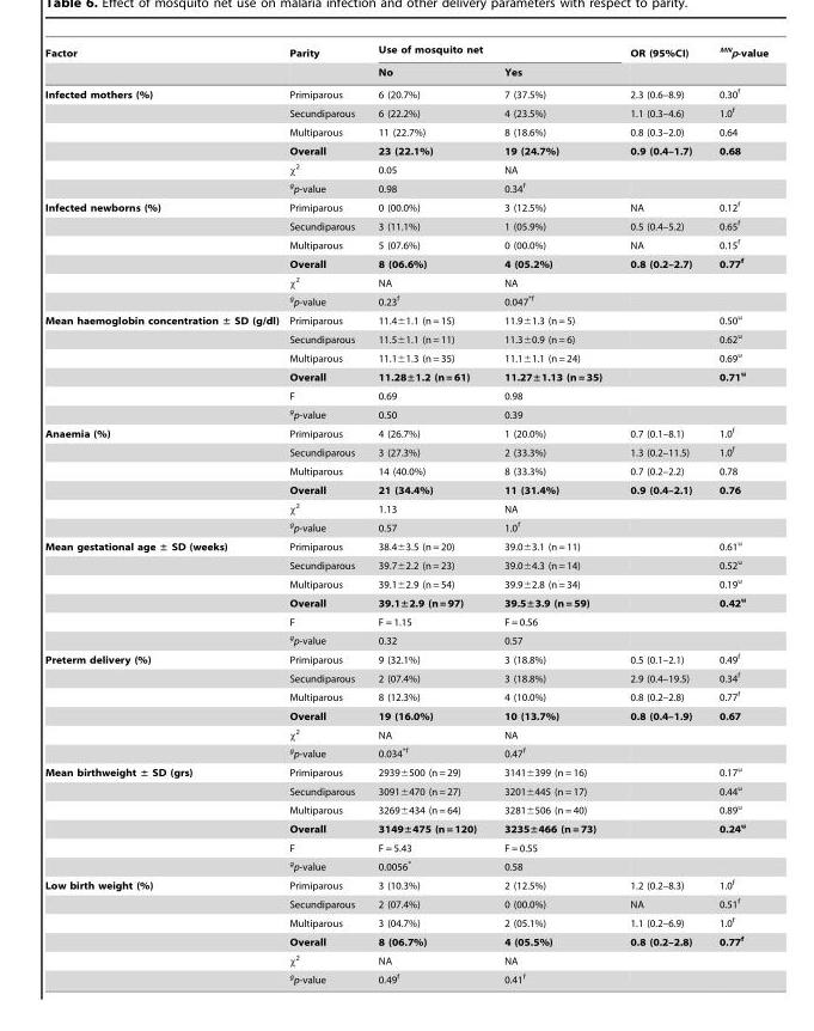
<table><thead><tr><td rowspan="2">Factor</td><td rowspan="2">Parity</td><td colspan="2">Use of mosquito net</td><td rowspan="2">OR (95%CI)</td><td rowspan="2">MNp-value</td></tr><tr><td>No</td><td>Yes</td></tr></thead><tbody><tr><td rowspan="6">Infected mothers (%)</td><td>Primiparous</td><td>6 (20.7%)</td><td>7 (37.5%)</td><td>2.3 (0.6–8.9)</td><td>0.30<sup>f</sup></td></tr><tr><td>Secundiparous</td><td>6 (22.2%)</td><td>4 (23.5%)</td><td>1.1 (0.3–4.6)</td><td>1.0<sup>f</sup></td></tr><tr><td>Multiparous</td><td>11 (22.7%)</td><td>8 (18.6%)</td><td>0.8 (0.3–2.0)</td><td>0.64</td></tr><tr><td>Overall</td><td>23 (22.1%)</td><td>19 (24.7%)</td><td>0.9 (0.4–1.7)</td><td>0.68</td></tr><tr><td>χ<sup>2</sup></td><td>0.05</td><td>NA</td><td></td><td></td></tr><tr><td>gp-value</td><td>0.98</td><td>0.34<sup>f</sup></td><td></td><td></td></tr><tr><td rowspan="6">Infected newborns (%)</td><td>Primiparous</td><td>0 (00.0%)</td><td>3 (12.5%)</td><td>NA</td><td>0.12<sup>f</sup></td></tr><tr><td>Secundiparous</td><td>3 (11.1%)</td><td>1 (05.9%)</td><td>0.5 (0.4–5.2)</td><td>0.65<sup>f</sup></td></tr><tr><td>Multiparous</td><td>5 (07.6%)</td><td>0 (00.0%)</td><td>NA</td><td>0.15<sup>f</sup></td></tr><tr><td>Overall</td><td>8 (06.6%)</td><td>4 (05.2%)</td><td>0.8 (0.2–2.7)</td><td>0.77f</td></tr><tr><td>χ<sup>2</sup></td><td>NA</td><td>NA</td><td></td><td></td></tr><tr><td>gp-value</td><td>0.23<sup>f</sup></td><td>0.047*f</td><td></td><td></td></tr><tr><td rowspan="6">Mean haemoglobin concentration ± SD (g/dl)</td><td>Primiparous</td><td>11.4±1.1 (n = 15)</td><td>11.9±1.3 (n = 5)</td><td></td><td>0.50<sup>u</sup></td></tr><tr><td>Secundiparous</td><td>11.5±1.1 (n = 11)</td><td>11.3±0.9 (n = 6)</td><td></td><td>0.62<sup>u</sup></td></tr><tr><td>Multiparous</td><td>11.1±1.3 (n = 35)</td><td>11.1±1.1 (n = 24)</td><td></td><td>0.69<sup>u</sup></td></tr><tr><td>Overall</td><td>11.28±1.2 (n = 61)</td><td>11.27±1.13 (n = 35)</td><td></td><td>0.71u</td></tr><tr><td>F</td><td>0.69</td><td>0.98</td><td></td><td></td></tr><tr><td>gp-value</td><td>0.50</td><td>0.39</td><td></td><td></td></tr><tr><td rowspan="6">Anaemia (%)</td><td>Primiparous</td><td>4 (26.7%)</td><td>1 (20.0%)</td><td>0.7 (0.1–8.1)</td><td>1.0<sup>f</sup></td></tr><tr><td>Secundiparous</td><td>3 (27.3%)</td><td>2 (33.3%)</td><td>1.3 (0.2–11.5)</td><td>1.0<sup>f</sup></td></tr><tr><td>Multiparous</td><td>14 (40.0%)</td><td>8 (33.3%)</td><td>0.7 (0.2–2.2)</td><td>0.78</td></tr><tr><td>Overall</td><td>21 (34.4%)</td><td>11 (31.4%)</td><td>0.9 (0.4–2.1)</td><td>0.76</td></tr><tr><td>χ<sup>2</sup></td><td>1.13</td><td>NA</td><td></td><td></td></tr><tr><td>gp-value</td><td>0.57</td><td>1.0<sup>f</sup></td><td></td><td></td></tr><tr><td rowspan="6">Mean gestational age ± SD (weeks)</td><td>Primiparous</td><td>38.4±3.5 (n = 20)</td><td>39.0±3.1 (n = 11)</td><td></td><td>0.61<sup>u</sup></td></tr><tr><td>Secundiparous</td><td>39.7±2.2 (n = 23)</td><td>39.0±4.3 (n = 14)</td><td></td><td>0.52<sup>u</sup></td></tr><tr><td>Multiparous</td><td>39.1±2.9 (n = 54)</td><td>39.9±2.8 (n = 34)</td><td></td><td>0.19<sup>u</sup></td></tr><tr><td>Overall</td><td>39.1±2.9 (n = 97)</td><td>39.5±3.9 (n = 59)</td><td></td><td>0.42u</td></tr><tr><td>F</td><td>F = 1.15</td><td>F = 0.56</td><td></td><td></td></tr><tr><td>gp-value</td><td>0.32</td><td>0.57</td><td></td><td></td></tr><tr><td rowspan="6">Preterm delivery (%)</td><td>Primiparous</td><td>9 (32.1%)</td><td>3 (18.8%)</td><td>0.5 (0.1–2.1)</td><td>0.49<sup>f</sup></td></tr><tr><td>Secundiparous</td><td>2 (07.4%)</td><td>3 (18.8%)</td><td>2.9 (0.4–19.5)</td><td>0.34<sup>f</sup></td></tr><tr><td>Multiparous</td><td>8 (12.3%)</td><td>4 (10.0%)</td><td>0.8 (0.2–2.8)</td><td>0.77<sup>f</sup></td></tr><tr><td>Overall</td><td>19 (16.0%)</td><td>10 (13.7%)</td><td>0.8 (0.4–1.9)</td><td>0.67</td></tr><tr><td>χ<sup>2</sup></td><td>NA</td><td>NA</td><td></td><td></td></tr><tr><td>gp-value</td><td>0.034*f</td><td>0.47<sup>f</sup></td><td></td><td></td></tr><tr><td rowspan="6">Mean birthweight ± SD (grs)</td><td>Primiparous</td><td>2939±500 (n = 29)</td><td>3141±399 (n = 16)</td><td></td><td>0.17<sup>u</sup></td></tr><tr><td>Secundiparous</td><td>3091±470 (n = 27)</td><td>3201±445 (n = 17)</td><td></td><td>0.44<sup>u</sup></td></tr><tr><td>Multiparous</td><td>3269±434 (n = 64)</td><td>3281±506 (n = 40)</td><td></td><td>0.89<sup>u</sup></td></tr><tr><td>Overall</td><td>3149±475 (n = 120)</td><td>3235±466 (n = 73)</td><td></td><td>0.24u</td></tr><tr><td>F</td><td>F = 5.43</td><td>F = 0.55</td><td></td><td></td></tr><tr><td>gp-value</td><td>0.0056*</td><td>0.58</td><td></td><td></td></tr><tr><td rowspan="6">Low birth weight (%)</td><td>Primiparous</td><td>3 (10.3%)</td><td>2 (12.5%)</td><td>1.2 (0.2–8.3)</td><td>1.0<sup>f</sup></td></tr><tr><td>Secundiparous</td><td>2 (07.4%)</td><td>0 (00.0%)</td><td>NA</td><td>0.51<sup>f</sup></td></tr><tr><td>Multiparous</td><td>3 (04.7%)</td><td>2 (05.1%)</td><td>1.1 (0.2–6.9)</td><td>1.0<sup>f</sup></td></tr><tr><td>Overall</td><td>8 (06.7%)</td><td>4 (05.5%)</td><td>0.8 (0.2–2.8)</td><td>0.77f</td></tr><tr><td>χ<sup>2</sup></td><td>NA</td><td>NA</td><td></td><td></td></tr><tr><td>gp-value</td><td>0.49<sup>f</sup></td><td>0.41<sup>f</sup></td><td></td><td></td></tr></tbody></table>